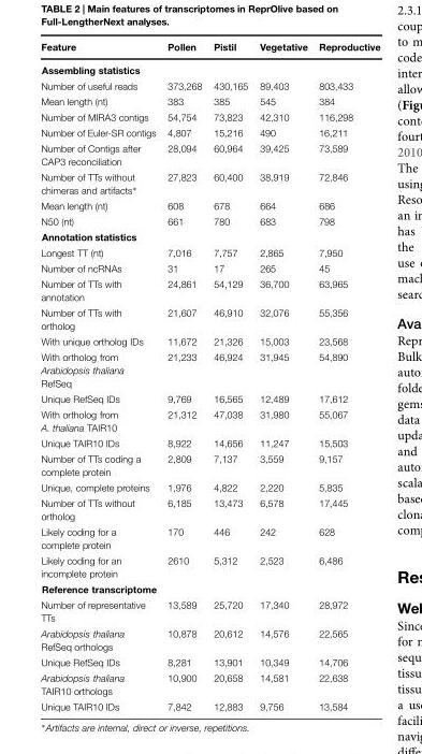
<table><thead><tr><td>Feature</td><td>Pollen</td><td>Pistil</td><td>Vegetative</td><td>Reproductive</td></tr></thead><tbody><tr><td colspan="5">Assembling statistics</td></tr><tr><td>Number of useful reads</td><td>373,268</td><td>430,165</td><td>89,403</td><td>803,433</td></tr><tr><td>Mean length (nt)</td><td>383</td><td>385</td><td>545</td><td>384</td></tr><tr><td>Number of MIRA3 contigs</td><td>54,754</td><td>73,823</td><td>42,310</td><td>116,298</td></tr><tr><td>Number of Euler-SR contigs</td><td>4,807</td><td>15,216</td><td>490</td><td>16,211</td></tr><tr><td>Number of Contigs after CAP3 reconciliation</td><td>28,094</td><td>60,964</td><td>39,425</td><td>73,589</td></tr><tr><td>Number of TTs without chimeras and artifacts∗</td><td>27,823</td><td>60,400</td><td>38,919</td><td>72,846</td></tr><tr><td>Mean length (nt)</td><td>608</td><td>678</td><td>664</td><td>686</td></tr><tr><td>N50 (nt)</td><td>661</td><td>780</td><td>683</td><td>798</td></tr><tr><td colspan="5">Annotation statistics</td></tr><tr><td>Longest TT (nt)</td><td>7,016</td><td>7,757</td><td>2,865</td><td>7,950</td></tr><tr><td>Number of ncRNAs</td><td>31</td><td>17</td><td>265</td><td>45</td></tr><tr><td>Number of TTs with annotation</td><td>24,861</td><td>54,129</td><td>36,700</td><td>63,965</td></tr><tr><td>Number of TTs with ortholog</td><td>21,607</td><td>46,910</td><td>32,076</td><td>55,356</td></tr><tr><td>With unique ortholog IDs</td><td>11,672</td><td>21,326</td><td>15,003</td><td>23,568</td></tr><tr><td>With ortholog from Arabidopsis thaliana RefSeq</td><td>21,233</td><td>46,924</td><td>31,945</td><td>54,890</td></tr><tr><td>Unique RefSeq IDs</td><td>9,769</td><td>16,565</td><td>12,489</td><td>17,612</td></tr><tr><td>With ortholog from A. thaliana TAIR10</td><td>21,312</td><td>47,038</td><td>31,980</td><td>55,067</td></tr><tr><td>Unique TAIR10 IDs</td><td>8,922</td><td>14,656</td><td>11,247</td><td>15,503</td></tr><tr><td>Number of TTs coding a complete protein</td><td>2,809</td><td>7,137</td><td>3,559</td><td>9,157</td></tr><tr><td>Unique, complete proteins</td><td>1,976</td><td>4,822</td><td>2,220</td><td>5,835</td></tr><tr><td>Number of TTs without ortholog</td><td>6,185</td><td>13,473</td><td>6,578</td><td>17,445</td></tr><tr><td>Likely coding for a complete protein</td><td>170</td><td>446</td><td>242</td><td>628</td></tr><tr><td>Likely coding for an incomplete protein</td><td>2610</td><td>5,312</td><td>2,523</td><td>6,486</td></tr><tr><td colspan="5">Reference transcriptome</td></tr><tr><td>Number of representative TTs</td><td>13,589</td><td>25,720</td><td>17,340</td><td>28,972</td></tr><tr><td>Arabidopsis thaliana RefSeq orthologs</td><td>10,878</td><td>20,612</td><td>14,576</td><td>22,565</td></tr><tr><td>Unique RefSeq IDs</td><td>8,281</td><td>13,901</td><td>10,349</td><td>14,706</td></tr><tr><td>Arabidopsis thaliana TAIR10 orthologs</td><td>10,900</td><td>20,658</td><td>14,581</td><td>22,638</td></tr><tr><td>Unique TAIR10 IDs</td><td>7,842</td><td>12,883</td><td>9,756</td><td>13,584</td></tr></tbody></table>